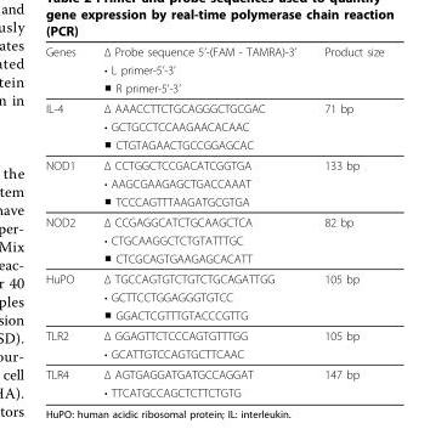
<table><thead><tr><td rowspan="3">Genes</td><td rowspan="3">Δ Probe sequence 5’-(FAM - TAMRA)-3’ • L primer-5’-3’ ■ R primer-5’-3’</td><td rowspan="3">Product size</td></tr><tr></tr><tr></tr></thead><tbody><tr><td rowspan="3">IL-4</td><td>Δ AAACCTTCTGCAGGGCTGCGAC</td><td>71 bp</td></tr><tr><td>• GCTGCCTCCAAGAACACAAC</td><td></td></tr><tr><td>■ CTGTAGAACTGCCGGAGCAC</td><td></td></tr><tr><td rowspan="3">NOD1</td><td>Δ CCTGGCTCCGACATCGGTGA</td><td>133 bp</td></tr><tr><td>• AAGCGAAGAGCTGACCAAAT</td><td></td></tr><tr><td>■ TCCCAGTTTAAGATGCGTGA</td><td></td></tr><tr><td rowspan="3">NOD2</td><td>Δ CCGAGGCATCTGCAAGCTCA</td><td>82 bp</td></tr><tr><td>• CTGCAAGGCTCTGTATTTGC</td><td></td></tr><tr><td>■ CTCGCAGTGAAGAGCACATT</td><td></td></tr><tr><td rowspan="3">HuPO</td><td>Δ TGCCAGTGTCTGTCTGCAGATTGG</td><td>105 bp</td></tr><tr><td>• GCTTCCTGGAGGGTGTCC</td><td></td></tr><tr><td>■ GGACTCGTTTGTACCCGTTG</td><td></td></tr><tr><td rowspan="2">TLR2</td><td>Δ GGAGTTCTCCCAGTGTTTGG</td><td>105 bp</td></tr><tr><td>• GCATTGTCCAGTGCTTCAAC</td><td></td></tr><tr><td rowspan="2">TLR4</td><td>Δ AGTGAGGATGATGCCAGGAT</td><td>147 bp</td></tr><tr><td>• TTCATGCCAGCTCTTCTGTG</td><td></td></tr></tbody></table>